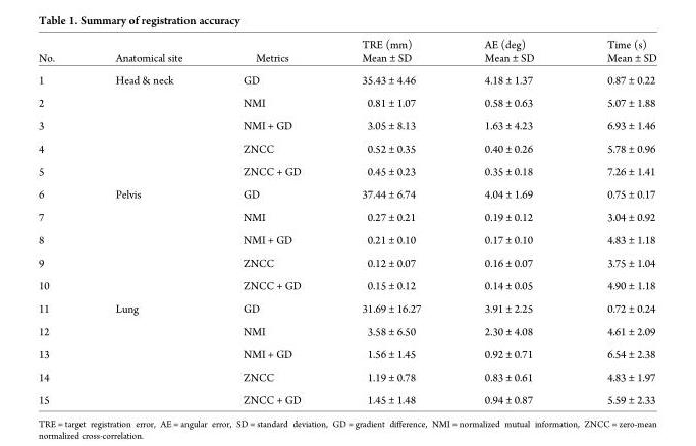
<table><thead><tr><td rowspan="2">No.</td><td rowspan="2">Anatomical site</td><td rowspan="2">Metrics</td><td rowspan="2">TRE (mm) Mean ± SD</td><td rowspan="2">AE (deg) Mean ± SD</td><td rowspan="2">Time (s) Mean ± SD</td></tr><tr></tr></thead><tbody><tr><td>1</td><td>Head &amp; neck</td><td>GD</td><td>35.43 ± 4.46</td><td>4.18 ± 1.37</td><td>0.87 ± 0.22</td></tr><tr><td>2</td><td></td><td>NMI</td><td>0.81 ± 1.07</td><td>0.58 ± 0.63</td><td>5.07 ± 1.88</td></tr><tr><td>3</td><td></td><td>NMI + GD</td><td>3.05 ± 8.13</td><td>1.63 ± 4.23</td><td>6.93 ± 1.46</td></tr><tr><td>4</td><td></td><td>ZNCC</td><td>0.52 ± 0.35</td><td>0.40 ± 0.26</td><td>5.78 ± 0.96</td></tr><tr><td>5</td><td></td><td>ZNCC + GD</td><td>0.45 ± 0.23</td><td>0.35 ± 0.18</td><td>7.26 ± 1.41</td></tr><tr><td>6</td><td>Pelvis</td><td>GD</td><td>37.44 ± 6.74</td><td>4.04 ± 1.69</td><td>0.75 ± 0.17</td></tr><tr><td>7</td><td></td><td>NMI</td><td>0.27 ± 0.21</td><td>0.19 ± 0.12</td><td>3.04 ± 0.92</td></tr><tr><td>8</td><td></td><td>NMI + GD</td><td>0.21 ± 0.10</td><td>0.17 ± 0.10</td><td>4.83 ± 1.18</td></tr><tr><td>9</td><td></td><td>ZNCC</td><td>0.12 ± 0.07</td><td>0.16 ± 0.07</td><td>3.75 ± 1.04</td></tr><tr><td>10</td><td></td><td>ZNCC + GD</td><td>0.15 ± 0.12</td><td>0.14 ± 0.05</td><td>4.90 ± 1.18</td></tr><tr><td>11</td><td>Lung</td><td>GD</td><td>31.69 ± 16.27</td><td>3.91 ± 2.25</td><td>0.72 ± 0.24</td></tr><tr><td>12</td><td></td><td>NMI</td><td>3.58 ± 6.50</td><td>2.30 ± 4.08</td><td>4.61 ± 2.09</td></tr><tr><td>13</td><td></td><td>NMI + GD</td><td>1.56 ± 1.45</td><td>0.92 ± 0.71</td><td>6.54 ± 2.38</td></tr><tr><td>14</td><td></td><td>ZNCC</td><td>1.19 ± 0.78</td><td>0.83 ± 0.61</td><td>4.83 ± 1.97</td></tr><tr><td>15</td><td></td><td>ZNCC + GD</td><td>1.45 ± 1.48</td><td>0.94 ± 0.87</td><td>5.59 ± 2.33</td></tr></tbody></table>